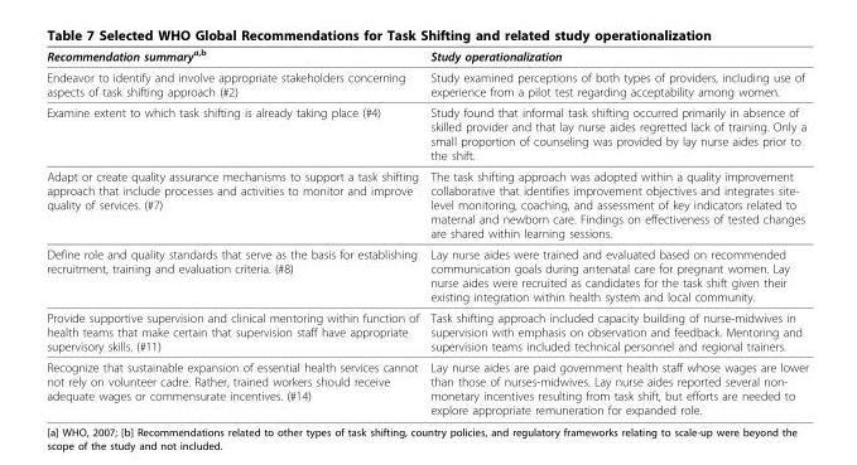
<table><thead><tr><td>Recommendation summary<sup>a,b</sup></td><td>Study operationalization</td></tr></thead><tbody><tr><td>Endeavor to identify and involve appropriate stakeholders concerning aspects of task shifting approach (#2)</td><td>Study examined perceptions of both types of providers, including use of experience from a pilot test regarding acceptability among women.</td></tr><tr><td>Examine extent to which task shifting is already taking place (#4)</td><td>Study found that informal task shifting occurred primarily in absence of skilled provider and that lay nurse aides regretted lack of training. Only a small proportion of counseling was provided by lay nurse aides prior to the shift.</td></tr><tr><td>Adapt or create quality assurance mechanisms to support a task shifting approach that include processes and activities to monitor and improve quality of services. (#7)</td><td>The task shifting approach was adopted within a quality improvement collaborative that identifies improvement objectives and integrates site- level monitoring, coaching, and assessment of key indicators related to maternal and newborn care. Findings on effectiveness of tested changes are shared within learning sessions.</td></tr><tr><td>Define role and quality standards that serve as the basis for establishing recruitment, training and evaluation criteria. (#8)</td><td>Lay nurse aides were trained and evaluated based on recommended communication goals during antenatal care for pregnant women. Lay nurse aides were recruited as candidates for the task shift given their existing integration within health system and local community.</td></tr><tr><td>Provide supportive supervision and clinical mentoring within function of health teams that make certain that supervision staff have appropriate supervisory skills. (#11)</td><td>Task shifting approach included capacity building of nurse-midwives in supervision with emphasis on observation and feedback. Mentoring and supervision teams included technical personnel and regional trainers.</td></tr><tr><td>Recognize that sustainable expansion of essential health services cannot not rely on volunteer cadre. Rather, trained workers should receive adequate wages or commensurate incentives. (#14)</td><td>Lay nurse aides are paid government health staff whose wages are lower than those of nurses-midwives. Lay nurse aides reported several non- monetary incentives resulting from task shift, but efforts are needed to explore appropriate remuneration for expanded role.</td></tr></tbody></table>